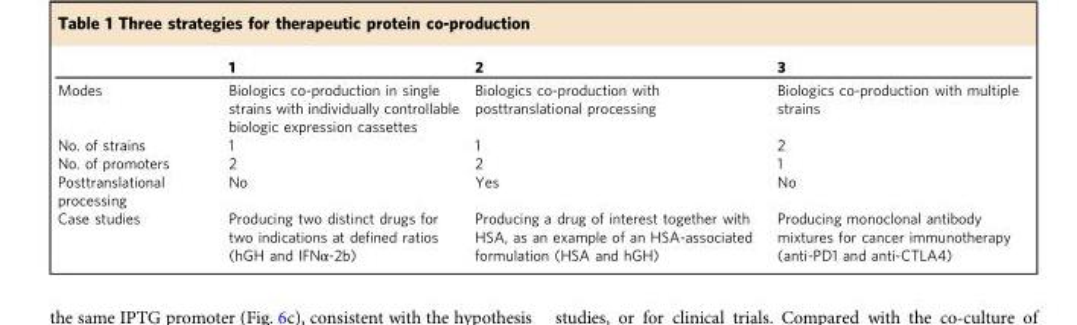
<table><thead><tr><td></td><td>1</td><td>2</td><td>3</td></tr></thead><tbody><tr><td>Modes</td><td>Biologics co-production in single strains with individually controllable biologic expression cassettes</td><td>Biologics co-production with posttranslational processing</td><td>Biologics co-production with multiple strains</td></tr><tr><td>No. of strains</td><td>1</td><td>1</td><td>2</td></tr><tr><td>No. of promoters</td><td>2</td><td>2</td><td>1</td></tr><tr><td>Posttranslational processing</td><td>No</td><td>Yes</td><td>No</td></tr><tr><td>Case studies</td><td>Producing two distinct drugs for two indications at defined ratios (hGH and IFNα-2b)</td><td>Producing a drug of interest together with HSA, as an example of an HSA-associated formulation (HSA and hGH)</td><td>Producing monoclonal antibody mixtures for cancer immunotherapy (anti-PD1 and anti-CTLA4)</td></tr></tbody></table>